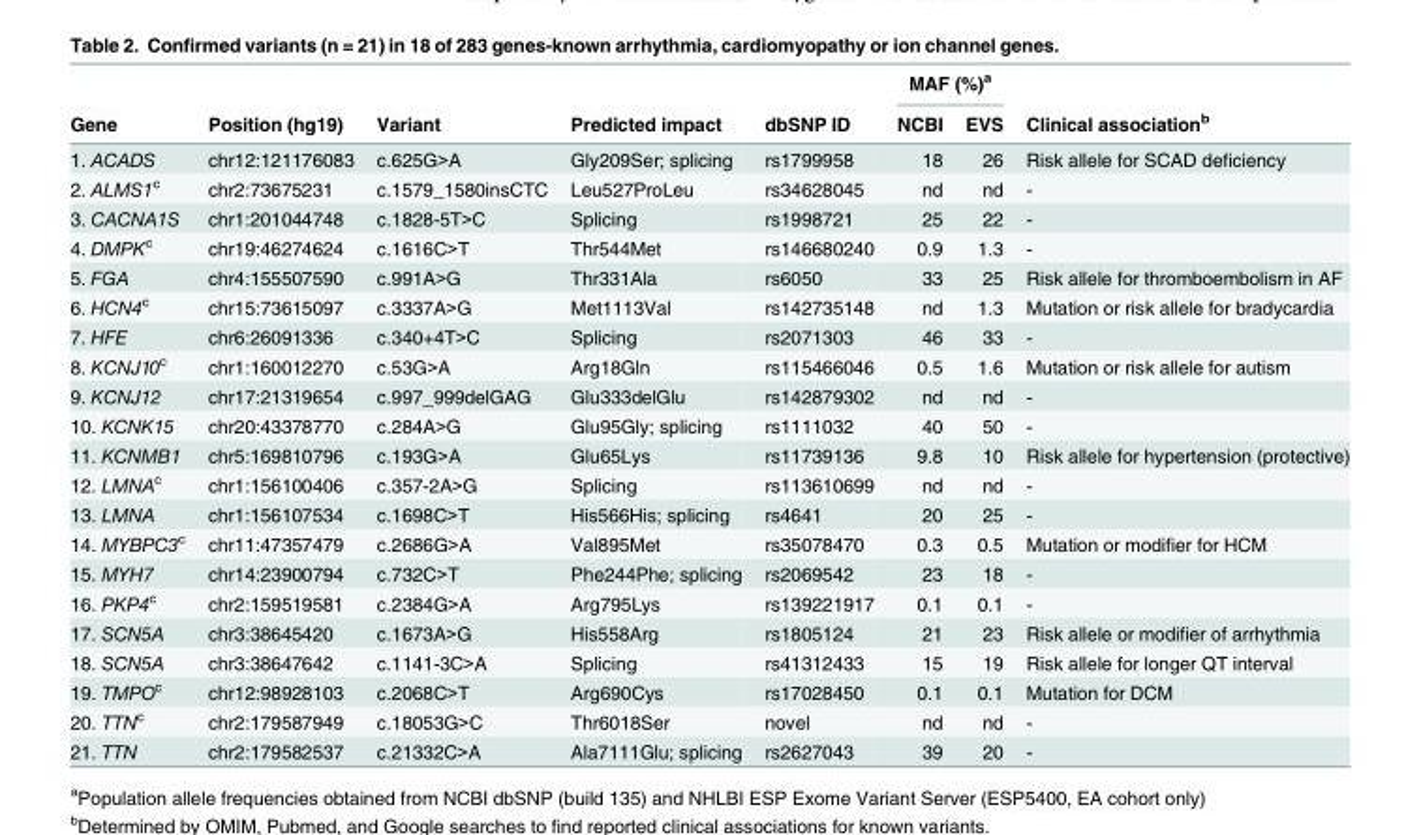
<table><thead><tr><td rowspan="2">Gene</td><td rowspan="2">Position (hg19)</td><td rowspan="2">Variant</td><td rowspan="2">Predicted impact</td><td rowspan="2">dbSNP ID</td><td colspan="2">MAF (%)<sup>a</sup></td><td rowspan="2">Clinical association<sup>b</sup></td></tr><tr><td>NCBI</td><td>EVS</td></tr></thead><tbody><tr><td>1. ACADS</td><td>chr12:121176083</td><td>c.625G&gt;A</td><td>Gly209Ser; splicing</td><td>rs1799958</td><td>18</td><td>26</td><td>Risk allele for SCAD deficiency</td></tr><tr><td>2. ALMS1<sup>c</sup></td><td>chr2:73675231</td><td>c.1579_1580insCTC</td><td>Leu527ProLeu</td><td>rs34628045</td><td>nd</td><td>nd</td><td>-</td></tr><tr><td>3. CACNA1S</td><td>chr1:201044748</td><td>c.1828-5T&gt;C</td><td>Splicing</td><td>rs1998721</td><td>25</td><td>22</td><td>-</td></tr><tr><td>4. DMPK<sup>c</sup></td><td>chr19:46274624</td><td>c.1616C&gt;T</td><td>Thr544Met</td><td>rs146680240</td><td>0.9</td><td>1.3</td><td>-</td></tr><tr><td>5. FGA</td><td>chr4:155507590</td><td>c.991A&gt;G</td><td>Thr331Ala</td><td>rs6050</td><td>33</td><td>25</td><td>Risk allele for thromboembolism in AF</td></tr><tr><td>6. HCN4<sup>c</sup></td><td>chr15:73615097</td><td>c.3337A&gt;G</td><td>Met1113Val</td><td>rs142735148</td><td>nd</td><td>1.3</td><td>Mutation or risk allele for bradycardia</td></tr><tr><td>7. HFE</td><td>chr6:26091336</td><td>c.340+4T&gt;C</td><td>Splicing</td><td>rs2071303</td><td>46</td><td>33</td><td>-</td></tr><tr><td>8. KCNJ10<sup>c</sup></td><td>chr1:160012270</td><td>c.53G&gt;A</td><td>Arg18Gln</td><td>rs115466046</td><td>0.5</td><td>1.6</td><td>Mutation or risk allele for autism</td></tr><tr><td>9. KCNJ12</td><td>chr17:21319654</td><td>c.997_999delGAG</td><td>Glu333delGlu</td><td>rs142879302</td><td>nd</td><td>nd</td><td>-</td></tr><tr><td>10. KCNK15</td><td>chr20:43378770</td><td>c.284A&gt;G</td><td>Glu95Gly; splicing</td><td>rs1111032</td><td>40</td><td>50</td><td>-</td></tr><tr><td>11. KCNMB1</td><td>chr5:169810796</td><td>c.193G&gt;A</td><td>Glu65Lys</td><td>rs11739136</td><td>9.8</td><td>10</td><td>Risk allele for hypertension (protective)</td></tr><tr><td>12. LMNA<sup>c</sup></td><td>chr1:156100406</td><td>c.357-2A&gt;G</td><td>Splicing</td><td>rs113610699</td><td>nd</td><td>nd</td><td>-</td></tr><tr><td>13. LMNA</td><td>chr1:156107534</td><td>c.1698C&gt;T</td><td>His566His; splicing</td><td>rs4641</td><td>20</td><td>25</td><td>-</td></tr><tr><td>14. MYBPC3<sup>c</sup></td><td>chr11:47357479</td><td>c.2686G&gt;A</td><td>Val895Met</td><td>rs35078470</td><td>0.3</td><td>0.5</td><td>Mutation or modifier for HCM</td></tr><tr><td>15. MYH7</td><td>chr14:23900794</td><td>c.732C&gt;T</td><td>Phe244Phe; splicing</td><td>rs2069542</td><td>23</td><td>18</td><td>-</td></tr><tr><td>16. PKP4<sup>c</sup></td><td>chr2:159519581</td><td>c.2384G&gt;A</td><td>Arg795Lys</td><td>rs139221917</td><td>0.1</td><td>0.1</td><td>-</td></tr><tr><td>17. SCN5A</td><td>chr3:38645420</td><td>c.1673A&gt;G</td><td>His558Arg</td><td>rs1805124</td><td>21</td><td>23</td><td>Risk allele or modifier of arrhythmia</td></tr><tr><td>18. SCN5A</td><td>chr3:38647642</td><td>c.1141-3C&gt;A</td><td>Splicing</td><td>rs41312433</td><td>15</td><td>19</td><td>Risk allele for longer QT interval</td></tr><tr><td>19. TMPO<sup>c</sup></td><td>chr12:98928103</td><td>c.2068C&gt;T</td><td>Arg690Cys</td><td>rs17028450</td><td>0.1</td><td>0.1</td><td>Mutation for DCM</td></tr><tr><td>20. TTN<sup>c</sup></td><td>chr2:179587949</td><td>c.18053G&gt;C</td><td>Thr6018Ser</td><td>novel</td><td>nd</td><td>nd</td><td>-</td></tr><tr><td>21. TTN</td><td>chr2:179582537</td><td>c.21332C&gt;A</td><td>Ala7111Glu; splicing</td><td>rs2627043</td><td>39</td><td>20</td><td>-</td></tr></tbody></table>